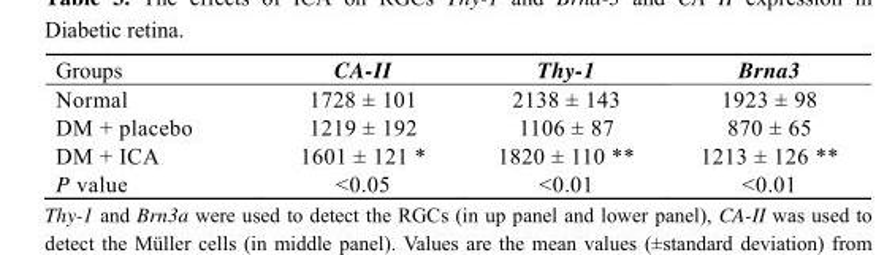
<table><thead><tr><td>Groups</td><td>CA-II</td><td>Thy-1</td><td>Brna3</td></tr></thead><tbody><tr><td>Normal</td><td>1728 ± 101</td><td>2138 ± 143</td><td>1923 ± 98</td></tr><tr><td>DM + placebo</td><td>1219 ± 192</td><td>1106 ± 87</td><td>870 ± 65</td></tr><tr><td>DM + ICA</td><td>1601 ± 121 *</td><td>1820 ± 110 **</td><td>1213 ± 126 **</td></tr><tr><td>P value</td><td>&lt;0.05</td><td>&lt;0.01</td><td>&lt;0.01</td></tr></tbody></table>